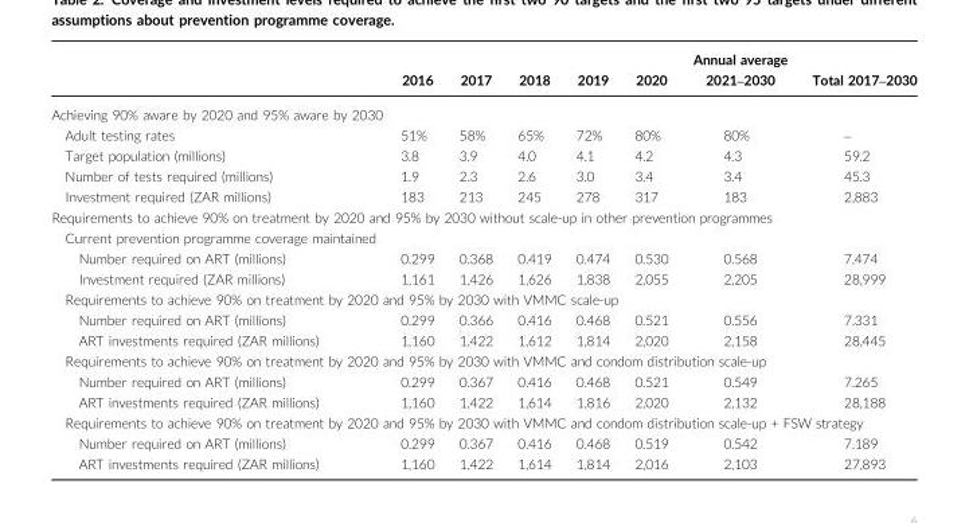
<table><thead><tr><td></td><td>2016</td><td>2017</td><td>2018</td><td>2019</td><td>2020</td><td>Annual average 2021–2030</td><td>Total 2017–2030</td></tr></thead><tbody><tr><td colspan="8">Achieving 90% aware by 2020 and 95% aware by 2030</td></tr><tr><td>Adult testing rates</td><td>51%</td><td>58%</td><td>65%</td><td>72%</td><td>80%</td><td>80%</td><td>–</td></tr><tr><td>Target population (millions)</td><td>3.8</td><td>3.9</td><td>4.0</td><td>4.1</td><td>4.2</td><td>4.3</td><td>59.2</td></tr><tr><td>Number of tests required (millions)</td><td>1.9</td><td>2.3</td><td>2.6</td><td>3.0</td><td>3.4</td><td>3.4</td><td>45.3</td></tr><tr><td>Investment required (ZAR millions)</td><td>183</td><td>213</td><td>245</td><td>278</td><td>317</td><td>183</td><td>2,883</td></tr><tr><td colspan="8">Requirements to achieve 90% on treatment by 2020 and 95% by 2030 without scale-up in other prevention programmes</td></tr><tr><td colspan="8">Current prevention programme coverage maintained</td></tr><tr><td>Number required on ART (millions)</td><td>0.299</td><td>0.368</td><td>0.419</td><td>0.474</td><td>0.530</td><td>0.568</td><td>7.474</td></tr><tr><td>Investment required (ZAR millions)</td><td>1,161</td><td>1,426</td><td>1,626</td><td>1,838</td><td>2,055</td><td>2,205</td><td>28,999</td></tr><tr><td colspan="8">Requirements to achieve 90% on treatment by 2020 and 95% by 2030 with VMMC scale-up</td></tr><tr><td>Number required on ART (millions)</td><td>0.299</td><td>0.366</td><td>0.416</td><td>0.468</td><td>0.521</td><td>0.556</td><td>7.331</td></tr><tr><td>ART investments required (ZAR millions)</td><td>1,160</td><td>1,422</td><td>1,612</td><td>1,814</td><td>2,020</td><td>2,158</td><td>28,445</td></tr><tr><td colspan="8">Requirements to achieve 90% on treatment by 2020 and 95% by 2030 with VMMC and condom distribution scale-up</td></tr><tr><td>Number required on ART (millions)</td><td>0.299</td><td>0.367</td><td>0.416</td><td>0.468</td><td>0.521</td><td>0.549</td><td>7.265</td></tr><tr><td>ART investments required (ZAR millions)</td><td>1,160</td><td>1,422</td><td>1,614</td><td>1,816</td><td>2,020</td><td>2,132</td><td>28,188</td></tr><tr><td colspan="8">Requirements to achieve 90% on treatment by 2020 and 95% by 2030 with VMMC and condom distribution scale-up + FSW strategy</td></tr><tr><td>Number required on ART (millions)</td><td>0.299</td><td>0.367</td><td>0.416</td><td>0.468</td><td>0.519</td><td>0.542</td><td>7.189</td></tr><tr><td>ART investments required (ZAR millions)</td><td>1,160</td><td>1,422</td><td>1,614</td><td>1,814</td><td>2,016</td><td>2,103</td><td>27,893</td></tr></tbody></table>